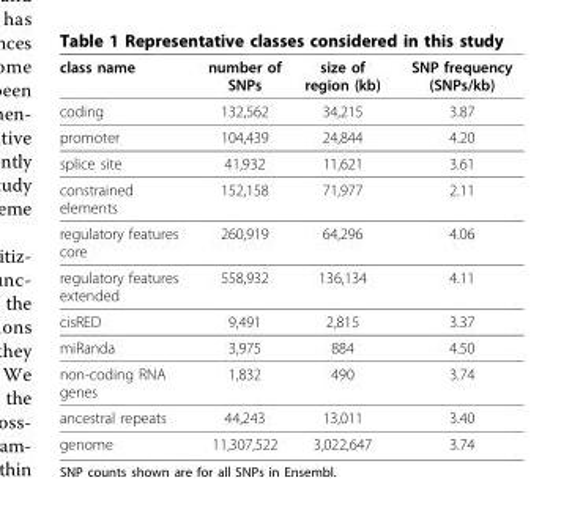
<table><thead><tr><td>class name</td><td>number of SNPs</td><td>size of region (kb)</td><td>SNP frequency (SNPs/kb)</td></tr></thead><tbody><tr><td>coding</td><td>132,562</td><td>34,215</td><td>3.87</td></tr><tr><td>promoter</td><td>104,439</td><td>24,844</td><td>4.20</td></tr><tr><td>splice site</td><td>41,932</td><td>11,621</td><td>3.61</td></tr><tr><td>constrained elements</td><td>152,158</td><td>71,977</td><td>2.11</td></tr><tr><td>regulatory features core</td><td>260,919</td><td>64,296</td><td>4.06</td></tr><tr><td>regulatory features extended</td><td>558,932</td><td>136,134</td><td>4.11</td></tr><tr><td>cisRED</td><td>9,491</td><td>2,815</td><td>3.37</td></tr><tr><td>miRanda</td><td>3,975</td><td>884</td><td>4.50</td></tr><tr><td>non-coding RNA genes</td><td>1,832</td><td>490</td><td>3.74</td></tr><tr><td>ancestral repeats</td><td>44,243</td><td>13,011</td><td>3.40</td></tr><tr><td>genome</td><td>11,307,522</td><td>3,022,647</td><td>3.74</td></tr></tbody></table>